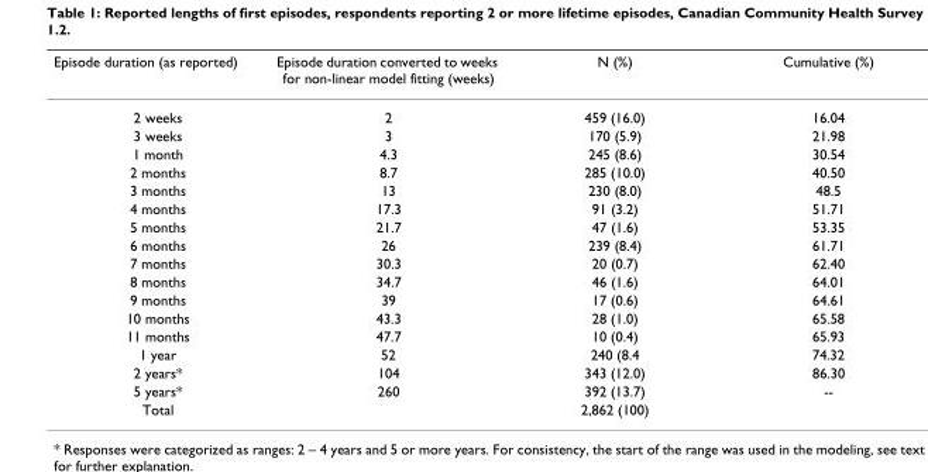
<table><thead><tr><td>Episode duration (as reported)</td><td>Episode duration converted to weeks for non-linear model fitting (weeks)</td><td>N (%)</td><td>Cumulative (%)</td></tr></thead><tbody><tr><td>2 weeks</td><td>2</td><td>459 (16.0)</td><td>16.04</td></tr><tr><td>3 weeks</td><td>3</td><td>170 (5.9)</td><td>21.98</td></tr><tr><td>1 month</td><td>4.3</td><td>245 (8.6)</td><td>30.54</td></tr><tr><td>2 months</td><td>8.7</td><td>285 (10.0)</td><td>40.50</td></tr><tr><td>3 months</td><td>13</td><td>230 (8.0)</td><td>48.5</td></tr><tr><td>4 months</td><td>17.3</td><td>91 (3.2)</td><td>51.71</td></tr><tr><td>5 months</td><td>21.7</td><td>47 (1.6)</td><td>53.35</td></tr><tr><td>6 months</td><td>26</td><td>239 (8.4)</td><td>61.71</td></tr><tr><td>7 months</td><td>30.3</td><td>20 (0.7)</td><td>62.40</td></tr><tr><td>8 months</td><td>34.7</td><td>46 (1.6)</td><td>64.01</td></tr><tr><td>9 months</td><td>39</td><td>17 (0.6)</td><td>64.61</td></tr><tr><td>10 months</td><td>43.3</td><td>28 (1.0)</td><td>65.58</td></tr><tr><td>11 months</td><td>47.7</td><td>10 (0.4)</td><td>65.93</td></tr><tr><td>1 year</td><td>52</td><td>240 (8.4</td><td>74.32</td></tr><tr><td>2 years*</td><td>104</td><td>343 (12.0)</td><td>86.30</td></tr><tr><td>5 years*</td><td>260</td><td>392 (13.7)</td><td>--</td></tr><tr><td>Total</td><td></td><td>2,862 (100)</td><td></td></tr></tbody></table>